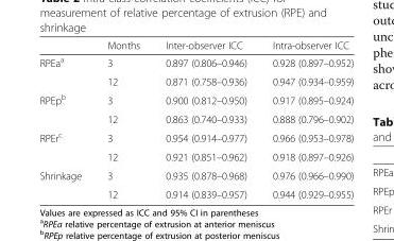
<table><thead><tr><td></td><td>Months</td><td>Inter-observer ICC</td><td>Intra-observer ICC</td></tr></thead><tbody><tr><td rowspan="2">RPEa<sup>a</sup></td><td>3</td><td>0.897 (0.806–0.946)</td><td>0.928 (0.897–0.952)</td></tr><tr><td>12</td><td>0.871 (0.758–0.936)</td><td>0.947 (0.934–0.959)</td></tr><tr><td rowspan="2">RPEp<sup>b</sup></td><td>3</td><td>0.900 (0.812–0.950)</td><td>0.917 (0.895–0.924)</td></tr><tr><td>12</td><td>0.863 (0.740–0.933)</td><td>0.888 (0.796–0.902)</td></tr><tr><td rowspan="2">RPEr<sup>c</sup></td><td>3</td><td>0.954 (0.914–0.977)</td><td>0.966 (0.953–0.978)</td></tr><tr><td>12</td><td>0.921 (0.851–0.962)</td><td>0.918 (0.897–0.926)</td></tr><tr><td rowspan="2">Shrinkage</td><td>3</td><td>0.935 (0.878–0.968)</td><td>0.976 (0.966–0.990)</td></tr><tr><td>12</td><td>0.914 (0.839–0.957)</td><td>0.944 (0.929–0.955)</td></tr></tbody></table>